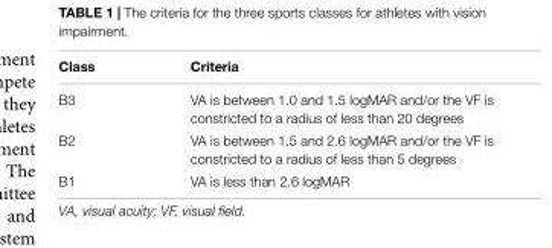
<table><thead><tr><td>Class</td><td>Criteria</td></tr></thead><tbody><tr><td>B3</td><td>VA is between 1.0 and 1.5 logMAR and/or the VF is constricted to a radius of less than 20 degrees</td></tr><tr><td>B2</td><td>VA is between 1.5 and 2.6 logMAR and/or the VF is constricted to a radius of less than 5 degrees</td></tr><tr><td>B1</td><td>VA is less than 2.6 logMAR</td></tr></tbody></table>